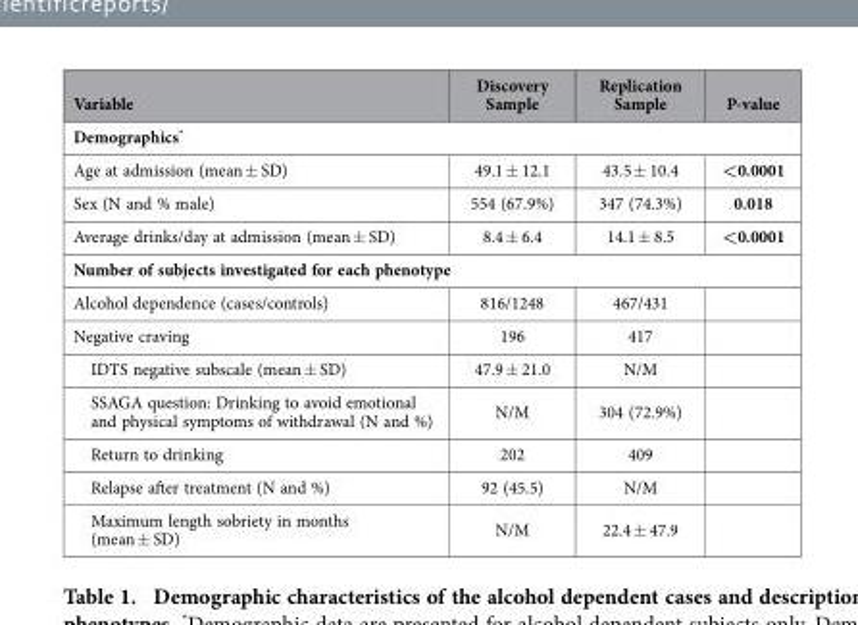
<table><thead><tr><td>Variable</td><td>Discovery Sample</td><td>Replication Sample</td><td>P-value</td></tr></thead><tbody><tr><td colspan="4">Demographics*</td></tr><tr><td>Age at admission (mean ± SD)</td><td>49.1 ± 12.1</td><td>43.5 ± 10.4</td><td>&lt;0.0001</td></tr><tr><td>Sex (N and % male)</td><td>554 (67.9%)</td><td>347 (74.3%)</td><td>0.018</td></tr><tr><td>Average drinks/day at admission (mean ± SD)</td><td>8.4 ± 6.4</td><td>14.1 ± 8.5</td><td>&lt;0.0001</td></tr><tr><td colspan="4">Number of subjects investigated for each phenotype</td></tr><tr><td>Alcohol dependence (cases/controls)</td><td>816/1248</td><td>467/431</td><td></td></tr><tr><td>Negative craving</td><td>196</td><td>417</td><td></td></tr><tr><td>IDTS negative subscale (mean ± SD)</td><td>47.9 ± 21.0</td><td>N/M</td><td></td></tr><tr><td>SSAGA question: Drinking to avoid emotional and physical symptoms of withdrawal (N and %)</td><td>N/M</td><td>304 (72.9%)</td><td></td></tr><tr><td>Return to drinking</td><td>202</td><td>409</td><td></td></tr><tr><td>Relapse after treatment (N and %)</td><td>92 (45.5)</td><td>N/M</td><td></td></tr><tr><td>Maximum length sobriety in months (mean ± SD)</td><td>N/M</td><td>22.4 ± 47.9</td><td></td></tr></tbody></table>